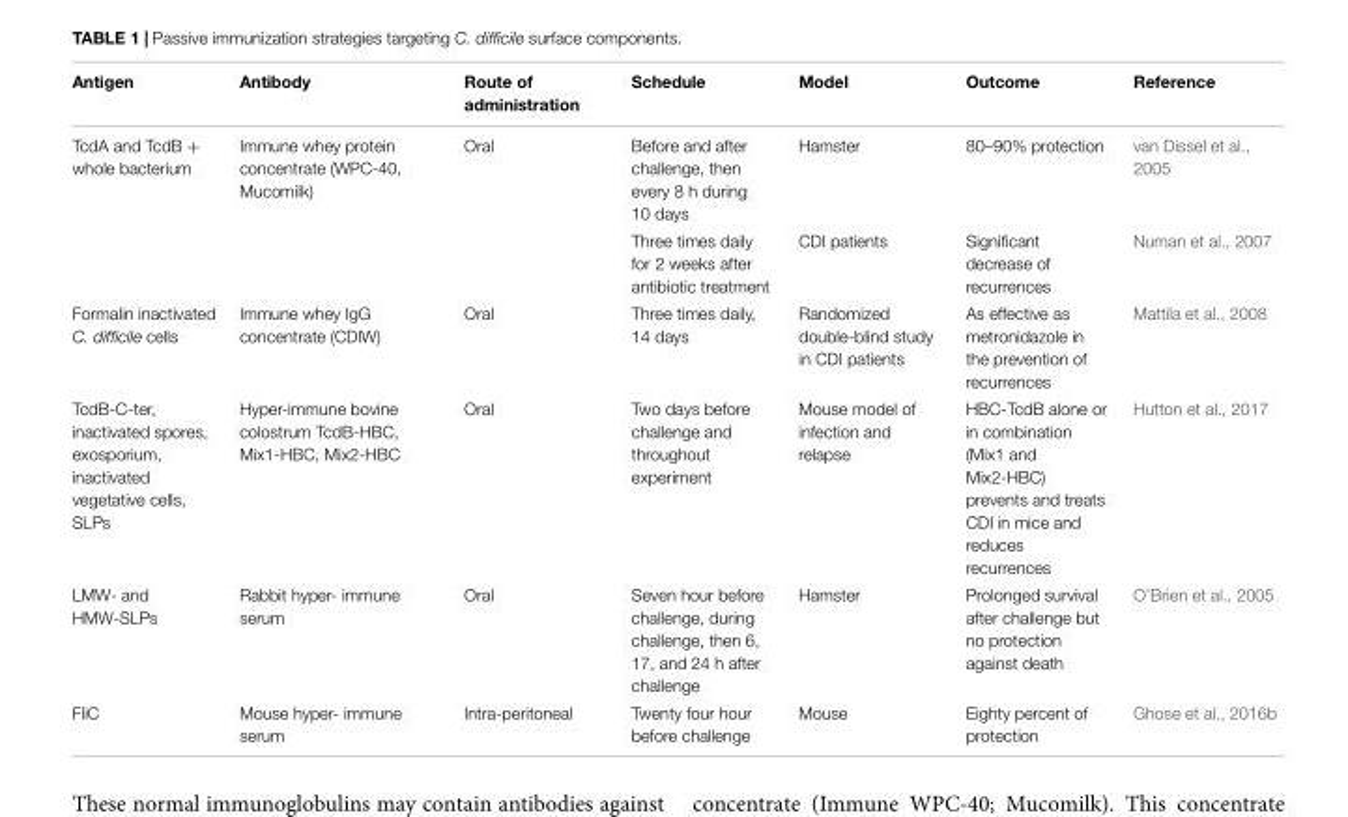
<table><thead><tr><td>Antigen</td><td>Antibody</td><td>Route of administration</td><td>Schedule</td><td>Model</td><td>Outcome</td><td>Reference</td></tr></thead><tbody><tr><td rowspan="2">TcdA and TcdB + whole bacterium</td><td>Immune whey protein concentrate (WPC-40, Mucomilk)</td><td>Oral</td><td>Before and after challenge, then every 8 h during 10 days</td><td>Hamster</td><td>80–90% protection</td><td>van Dissel et al., 2005</td></tr><tr><td></td><td></td><td>Three times daily for 2 weeks after antibiotic treatment</td><td>CDI patients</td><td>Significant decrease of recurrences</td><td>Numan et al., 2007</td></tr><tr><td>Formalin inactivated C. difficile cells</td><td>Immune whey IgG concentrate (CDIW)</td><td>Oral</td><td>Three times daily, 14 days</td><td>Randomized double-blind study in CDI patients</td><td>As effective as metronidazole in the prevention of recurrences</td><td>Mattila et al., 2008</td></tr><tr><td>TcdB-C-ter, inactivated spores, exosporium, inactivated vegetative cells, SLPs</td><td>Hyper-immune bovine colostrum TcdB-HBC, Mix1-HBC, Mix2-HBC</td><td>Oral</td><td>Two days before challenge and throughout experiment</td><td>Mouse model of infection and relapse</td><td>HBC-TcdB alone or in combination (Mix1 and Mix2-HBC) prevents and treats CDI in mice and reduces recurrences</td><td>Hutton et al., 2017</td></tr><tr><td>LMW- and HMW-SLPs</td><td>Rabbit hyper- immune serum</td><td>Oral</td><td>Seven hour before challenge, during challenge, then 6, 17, and 24 h after challenge</td><td>Hamster</td><td>Prolonged survival after challenge but no protection against death</td><td>O’Brien et al., 2005</td></tr><tr><td>FliC</td><td>Mouse hyper- immune serum</td><td>Intra-peritoneal</td><td>Twenty four hour before challenge</td><td>Mouse</td><td>Eighty percent of protection</td><td>Ghose et al., 2016b</td></tr></tbody></table>